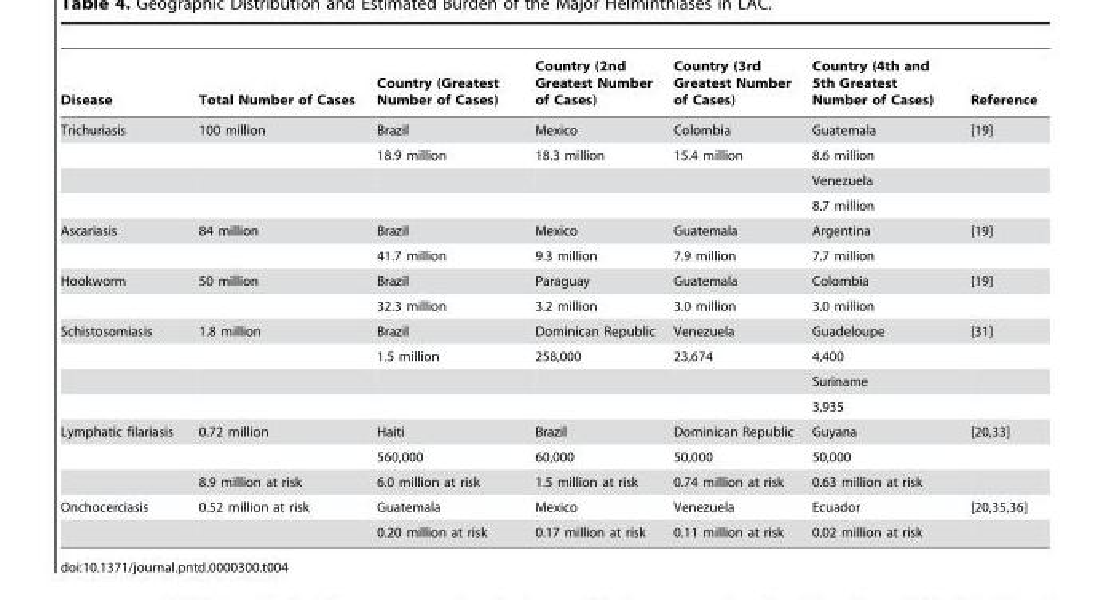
<table><thead><tr><td>Disease</td><td>Total Number of Cases</td><td>Country (Greatest Number of Cases)</td><td>Country (2nd Greatest Number of Cases)</td><td>Country (3rd Greatest Number of Cases)</td><td>Country (4th and 5th Greatest Number of Cases)</td><td>Reference</td></tr></thead><tbody><tr><td rowspan="4">Trichuriasis</td><td>100 million</td><td>Brazil</td><td>Mexico</td><td>Colombia</td><td>Guatemala</td><td>[19]</td></tr><tr><td></td><td>18.9 million</td><td>18.3 million</td><td>15.4 million</td><td>8.6 million</td><td></td></tr><tr><td></td><td></td><td></td><td></td><td>Venezuela</td><td></td></tr><tr><td></td><td></td><td></td><td></td><td>8.7 million</td><td></td></tr><tr><td rowspan="2">Ascariasis</td><td>84 million</td><td>Brazil</td><td>Mexico</td><td>Guatemala</td><td>Argentina</td><td>[19]</td></tr><tr><td></td><td>41.7 million</td><td>9.3 million</td><td>7.9 million</td><td>7.7 million</td><td></td></tr><tr><td rowspan="2">Hookworm</td><td>50 million</td><td>Brazil</td><td>Paraguay</td><td>Guatemala</td><td>Colombia</td><td>[19]</td></tr><tr><td></td><td>32.3 million</td><td>3.2 million</td><td>3.0 million</td><td>3.0 million</td><td></td></tr><tr><td rowspan="4">Schistosomiasis</td><td>1.8 million</td><td>Brazil</td><td>Dominican Republic</td><td>Venezuela</td><td>Guadeloupe</td><td>[31]</td></tr><tr><td></td><td>1.5 million</td><td>258,000</td><td>23,674</td><td>4,400</td><td></td></tr><tr><td></td><td></td><td></td><td></td><td>Suriname</td><td></td></tr><tr><td></td><td></td><td></td><td></td><td>3,935</td><td></td></tr><tr><td rowspan="3">Lymphatic filariasis</td><td>0.72 million</td><td>Haiti</td><td>Brazil</td><td>Dominican Republic</td><td>Guyana</td><td>[20,33]</td></tr><tr><td></td><td>560,000</td><td>60,000</td><td>50,000</td><td>50,000</td><td></td></tr><tr><td>8.9 million at risk</td><td>6.0 million at risk</td><td>1.5 million at risk</td><td>0.74 million at risk</td><td>0.63 million at risk</td><td></td></tr><tr><td rowspan="2">Onchocerciasis</td><td>0.52 million at risk</td><td>Guatemala</td><td>Mexico</td><td>Venezuela</td><td>Ecuador</td><td>[20,35,36]</td></tr><tr><td></td><td>0.20 million at risk</td><td>0.17 million at risk</td><td>0.11 million at risk</td><td>0.02 million at risk</td><td></td></tr></tbody></table>